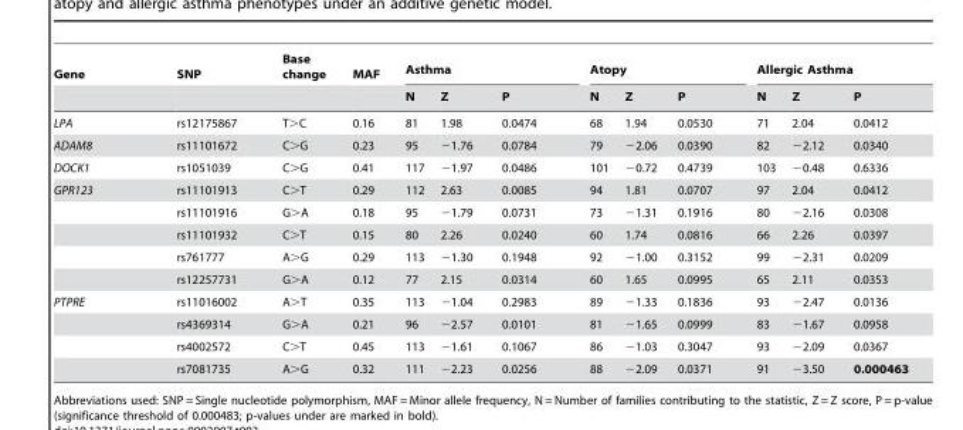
<table><thead><tr><td rowspan="2">Gene</td><td rowspan="2">SNP</td><td rowspan="2">Base change</td><td rowspan="2">MAF</td><td colspan="3">Asthma</td><td colspan="3">Atopy</td><td colspan="3">Allergic Asthma</td></tr><tr><td>N</td><td>Z</td><td>P</td><td>N</td><td>Z</td><td>P</td><td>N</td><td>Z</td><td>P</td></tr></thead><tbody><tr><td>LPA</td><td>rs12175867</td><td>T&gt;C</td><td>0.16</td><td>81</td><td>1.98</td><td>0.0474</td><td>68</td><td>1.94</td><td>0.0530</td><td>71</td><td>2.04</td><td>0.0412</td></tr><tr><td>ADAM8</td><td>rs11101672</td><td>C&gt;G</td><td>0.23</td><td>95</td><td>−1.76</td><td>0.0784</td><td>79</td><td>−2.06</td><td>0.0390</td><td>82</td><td>−2.12</td><td>0.0340</td></tr><tr><td>DOCK1</td><td>rs1051039</td><td>C&gt;G</td><td>0.41</td><td>117</td><td>−1.97</td><td>0.0486</td><td>101</td><td>−0.72</td><td>0.4739</td><td>103</td><td>−0.48</td><td>0.6336</td></tr><tr><td rowspan="5">GPR123</td><td>rs11101913</td><td>C&gt;T</td><td>0.29</td><td>112</td><td>2.63</td><td>0.0085</td><td>94</td><td>1.81</td><td>0.0707</td><td>97</td><td>2.04</td><td>0.0412</td></tr><tr><td>rs11101916</td><td>G&gt;A</td><td>0.18</td><td>95</td><td>−1.79</td><td>0.0731</td><td>73</td><td>−1.31</td><td>0.1916</td><td>80</td><td>−2.16</td><td>0.0308</td></tr><tr><td>rs11101932</td><td>C&gt;T</td><td>0.15</td><td>80</td><td>2.26</td><td>0.0240</td><td>60</td><td>1.74</td><td>0.0816</td><td>66</td><td>2.26</td><td>0.0397</td></tr><tr><td>rs761777</td><td>A&gt;G</td><td>0.29</td><td>113</td><td>−1.30</td><td>0.1948</td><td>92</td><td>−1.00</td><td>0.3152</td><td>99</td><td>−2.31</td><td>0.0209</td></tr><tr><td>rs12257731</td><td>G&gt;A</td><td>0.12</td><td>77</td><td>2.15</td><td>0.0314</td><td>60</td><td>1.65</td><td>0.0995</td><td>65</td><td>2.11</td><td>0.0353</td></tr><tr><td rowspan="4">PTPRE</td><td>rs11016002</td><td>A&gt;T</td><td>0.35</td><td>113</td><td>−1.04</td><td>0.2983</td><td>89</td><td>−1.33</td><td>0.1836</td><td>93</td><td>−2.47</td><td>0.0136</td></tr><tr><td>rs4369314</td><td>G&gt;A</td><td>0.21</td><td>96</td><td>−2.57</td><td>0.0101</td><td>81</td><td>−1.65</td><td>0.0999</td><td>83</td><td>−1.67</td><td>0.0958</td></tr><tr><td>rs4002572</td><td>C&gt;T</td><td>0.45</td><td>113</td><td>−1.61</td><td>0.1067</td><td>86</td><td>−1.03</td><td>0.3047</td><td>93</td><td>−2.09</td><td>0.0367</td></tr><tr><td>rs7081735</td><td>A&gt;G</td><td>0.32</td><td>111</td><td>−2.23</td><td>0.0256</td><td>88</td><td>−2.09</td><td>0.0371</td><td>91</td><td>−3.50</td><td>0.000463</td></tr></tbody></table>